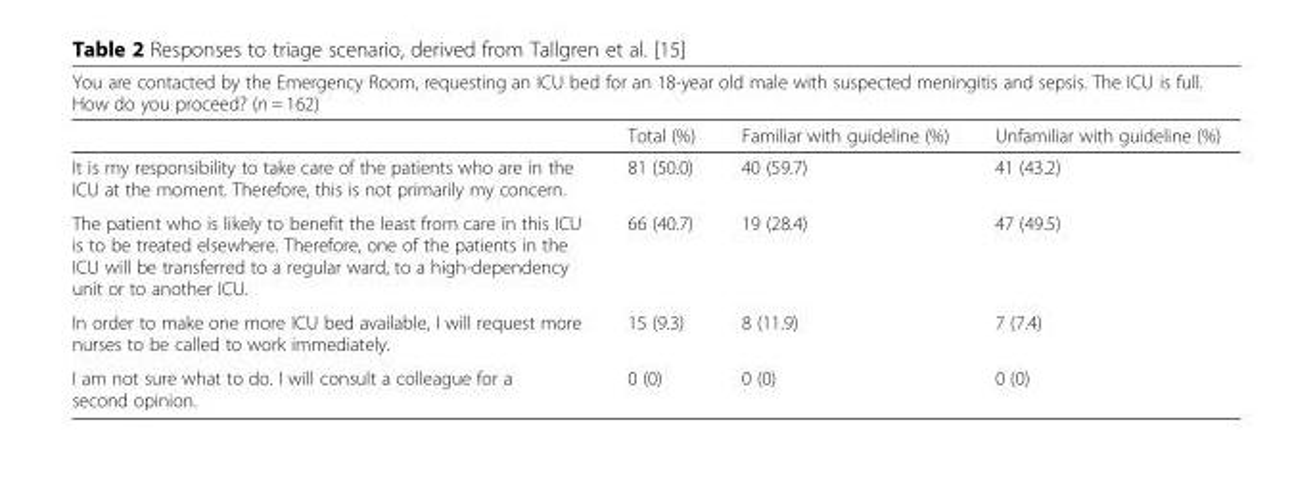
<table><thead><tr><td colspan="4">You are contacted by the Emergency Room, requesting an ICU bed for an 18-year old male with suspected meningitis and sepsis. The ICU is full. How do you proceed? (n = 162)</td></tr><tr><td></td><td>Total (%)</td><td>Familiar with guideline (%)</td><td>Unfamiliar with guideline (%)</td></tr></thead><tbody><tr><td>It is my responsibility to take care of the patients who are in the ICU at the moment. Therefore, this is not primarily my concern.</td><td>81 (50.0)</td><td>40 (59.7)</td><td>41 (43.2)</td></tr><tr><td>The patient who is likely to benefit the least from care in this ICU is to be treated elsewhere. Therefore, one of the patients in the ICU will be transferred to a regular ward, to a high-dependency unit or to another ICU.</td><td>66 (40.7)</td><td>19 (28.4)</td><td>47 (49.5)</td></tr><tr><td>In order to make one more ICU bed available, I will request more nurses to be called to work immediately.</td><td>15 (9.3)</td><td>8 (11.9)</td><td>7 (7.4)</td></tr><tr><td>I am not sure what to do. I will consult a colleague for a second opinion.</td><td>0 (0)</td><td>0 (0)</td><td>0 (0)</td></tr></tbody></table>